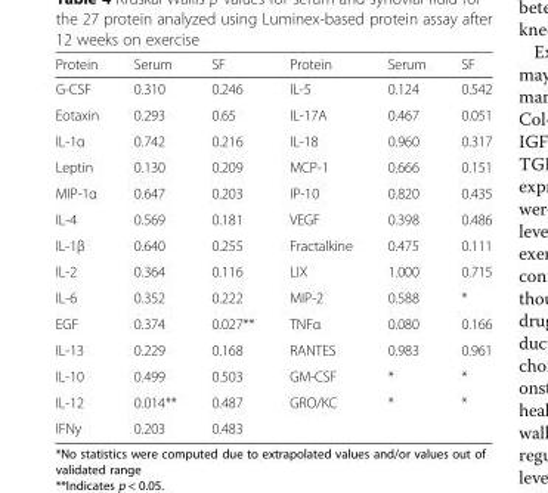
<table><thead><tr><td>Protein</td><td>Serum</td><td>SF</td><td>Protein</td><td>Serum</td><td>SF</td></tr></thead><tbody><tr><td>G-CSF</td><td>0.310</td><td>0.246</td><td>IL-5</td><td>0.124</td><td>0.542</td></tr><tr><td>Eotaxin</td><td>0.293</td><td>0.65</td><td>IL-17A</td><td>0.467</td><td>0.051</td></tr><tr><td>IL-1α</td><td>0.742</td><td>0.216</td><td>IL-18</td><td>0.960</td><td>0.317</td></tr><tr><td>Leptin</td><td>0.130</td><td>0.209</td><td>MCP-1</td><td>0.666</td><td>0.151</td></tr><tr><td>MIP-1α</td><td>0.647</td><td>0.203</td><td>IP-10</td><td>0.820</td><td>0.435</td></tr><tr><td>IL-4</td><td>0.569</td><td>0.181</td><td>VEGF</td><td>0.398</td><td>0.486</td></tr><tr><td>IL-1β</td><td>0.640</td><td>0.255</td><td>Fractalkine</td><td>0.475</td><td>0.111</td></tr><tr><td>IL-2</td><td>0.364</td><td>0.116</td><td>LIX</td><td>1.000</td><td>0.715</td></tr><tr><td>IL-6</td><td>0.352</td><td>0.222</td><td>MIP-2</td><td>0.588</td><td>*</td></tr><tr><td>EGF</td><td>0.374</td><td>0.027**</td><td>TNFα</td><td>0.080</td><td>0.166</td></tr><tr><td>IL-13</td><td>0.229</td><td>0.168</td><td>RANTES</td><td>0.983</td><td>0.961</td></tr><tr><td>IL-10</td><td>0.499</td><td>0.503</td><td>GM-CSF</td><td>*</td><td>*</td></tr><tr><td>IL-12</td><td>0.014**</td><td>0.487</td><td>GRO/KC</td><td>*</td><td>*</td></tr><tr><td>IFNy</td><td>0.203</td><td>0.483</td><td></td><td></td><td></td></tr></tbody></table>